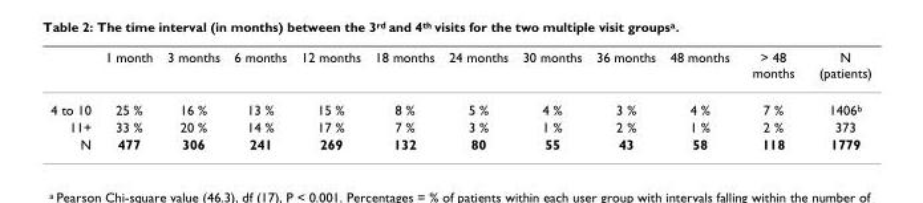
<table><thead><tr><td></td><td>1 month</td><td>3 months</td><td>6 months</td><td>12 months</td><td>18 months</td><td>24 months</td><td>30 months</td><td>36 months</td><td>48 months</td><td>&gt; 48 months</td><td>N (patients)</td></tr></thead><tbody><tr><td>4 to 10</td><td>25 %</td><td>16 %</td><td>13 %</td><td>15 %</td><td>8 %</td><td>5 %</td><td>4 %</td><td>3 %</td><td>4 %</td><td>7 %</td><td>1406<sup>b</sup></td></tr><tr><td>11+</td><td>33 %</td><td>20 %</td><td>14 %</td><td>17 %</td><td>7 %</td><td>3 %</td><td>1 %</td><td>2 %</td><td>1 %</td><td>2 %</td><td>373</td></tr><tr><td>N</td><td>477</td><td>306</td><td>241</td><td>269</td><td>132</td><td>80</td><td>55</td><td>43</td><td>58</td><td>118</td><td>1779</td></tr></tbody></table>